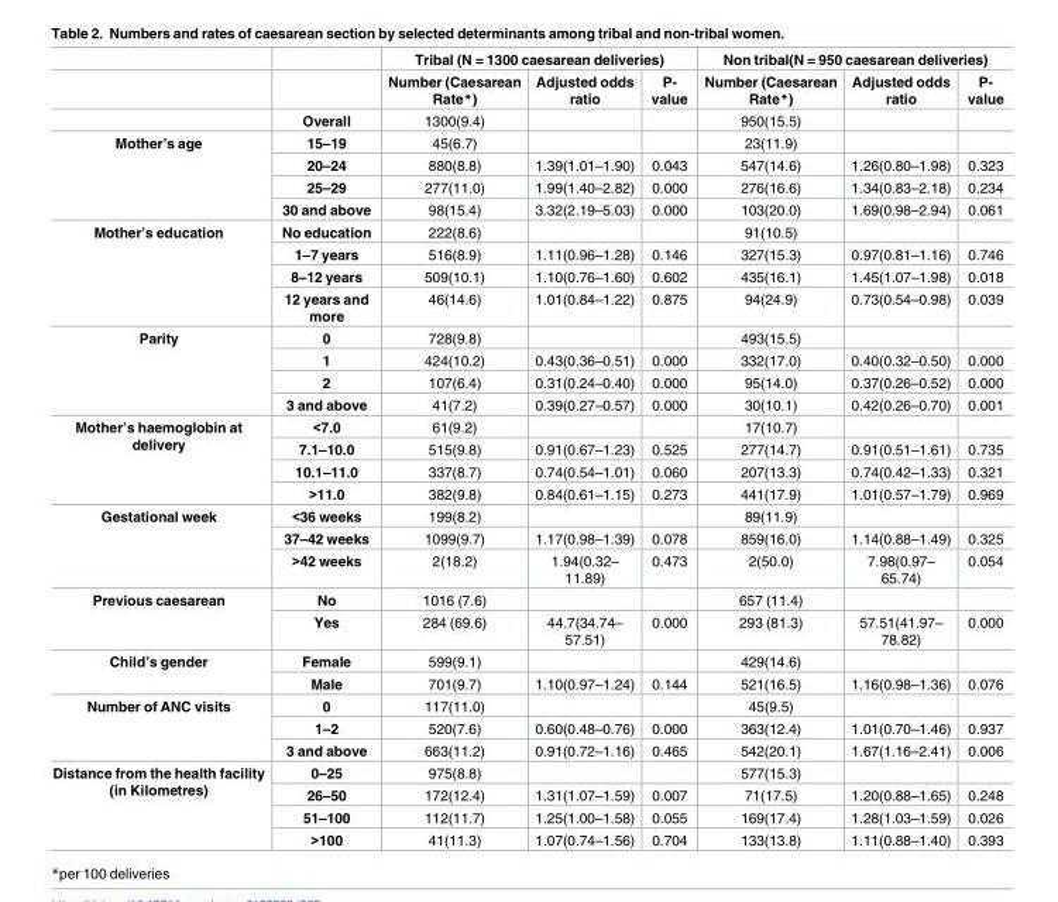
<table><thead><tr><td rowspan="2"></td><td rowspan="2"></td><td colspan="3">Tribal (N = 1300 caesarean deliveries)</td><td colspan="3">Non tribal(N = 950 caesarean deliveries)</td></tr><tr><td>Number (Caesarean Rate*)</td><td>Adjusted odds ratio</td><td>P- value</td><td>Number (Caesarean Rate*)</td><td>Adjusted odds ratio</td><td>P- value</td></tr></thead><tbody><tr><td></td><td>Overall</td><td>1300(9.4)</td><td></td><td></td><td>950(15.5)</td><td></td><td></td></tr><tr><td rowspan="4">Mother’s age</td><td>15–19</td><td>45(6.7)</td><td></td><td></td><td>23(11.9)</td><td></td><td></td></tr><tr><td>20–24</td><td>880(8.8)</td><td>1.39(1.01–1.90)</td><td>0.043</td><td>547(14.6)</td><td>1.26(0.80–1.98)</td><td>0.323</td></tr><tr><td>25–29</td><td>277(11.0)</td><td>1.99(1.40–2.82)</td><td>0.000</td><td>276(16.6)</td><td>1.34(0.83–2.18)</td><td>0.234</td></tr><tr><td>30 and above</td><td>98(15.4)</td><td>3.32(2.19–5.03)</td><td>0.000</td><td>103(20.0)</td><td>1.69(0.98–2.94)</td><td>0.061</td></tr><tr><td rowspan="4">Mother’s education</td><td>No education</td><td>222(8.6)</td><td></td><td></td><td>91(10.5)</td><td></td><td></td></tr><tr><td>1–7 years</td><td>516(8.9)</td><td>1.11(0.96–1.28)</td><td>0.146</td><td>327(15.3)</td><td>0.97(0.81–1.16)</td><td>0.746</td></tr><tr><td>8–12 years</td><td>509(10.1)</td><td>1.10(0.76–1.60)</td><td>0.602</td><td>435(16.1)</td><td>1.45(1.07–1.98)</td><td>0.018</td></tr><tr><td>12 years and more</td><td>46(14.6)</td><td>1.01(0.84–1.22)</td><td>0.875</td><td>94(24.9)</td><td>0.73(0.54–0.98)</td><td>0.039</td></tr><tr><td rowspan="4">Parity</td><td>0</td><td>728(9.8)</td><td></td><td></td><td>493(15.5)</td><td></td><td></td></tr><tr><td>1</td><td>424(10.2)</td><td>0.43(0.36–0.51)</td><td>0.000</td><td>332(17.0)</td><td>0.40(0.32–0.50)</td><td>0.000</td></tr><tr><td>2</td><td>107(6.4)</td><td>0.31(0.24–0.40)</td><td>0.000</td><td>95(14.0)</td><td>0.37(0.26–0.52)</td><td>0.000</td></tr><tr><td>3 and above</td><td>41(7.2)</td><td>0.39(0.27–0.57)</td><td>0.000</td><td>30(10.1)</td><td>0.42(0.26–0.70)</td><td>0.001</td></tr><tr><td rowspan="4">Mother’s haemoglobin at delivery</td><td>&lt;7.0</td><td>61(9.2)</td><td></td><td></td><td>17(10.7)</td><td></td><td></td></tr><tr><td>7.1–10.0</td><td>515(9.8)</td><td>0.91(0.67–1.23)</td><td>0.525</td><td>277(14.7)</td><td>0.91(0.51–1.61)</td><td>0.735</td></tr><tr><td>10.1–11.0</td><td>337(8.7)</td><td>0.74(0.54–1.01)</td><td>0.060</td><td>207(13.3)</td><td>0.74(0.42–1.33)</td><td>0.321</td></tr><tr><td>&gt;11.0</td><td>382(9.8)</td><td>0.84(0.61–1.15)</td><td>0.273</td><td>441(17.9)</td><td>1.01(0.57–1.79)</td><td>0.969</td></tr><tr><td rowspan="3">Gestational week</td><td>&lt;36 weeks</td><td>199(8.2)</td><td></td><td></td><td>89(11.9)</td><td></td><td></td></tr><tr><td>37–42 weeks</td><td>1099(9.7)</td><td>1.17(0.98–1.39)</td><td>0.078</td><td>859(16.0)</td><td>1.14(0.88–1.49)</td><td>0.325</td></tr><tr><td>&gt;42 weeks</td><td>2(18.2)</td><td>1.94(0.32– 11.89)</td><td>0.473</td><td>2(50.0)</td><td>7.98(0.97– 65.74)</td><td>0.054</td></tr><tr><td rowspan="2">Previous caesarean</td><td>No</td><td>1016 (7.6)</td><td></td><td></td><td>657 (11.4)</td><td></td><td></td></tr><tr><td>Yes</td><td>284 (69.6)</td><td>44.7(34.74– 57.51)</td><td>0.000</td><td>293 (81.3)</td><td>57.51(41.97– 78.82)</td><td>0.000</td></tr><tr><td rowspan="2">Child’s gender</td><td>Female</td><td>599(9.1)</td><td></td><td></td><td>429(14.6)</td><td></td><td></td></tr><tr><td>Male</td><td>701(9.7)</td><td>1.10(0.97–1.24)</td><td>0.144</td><td>521(16.5)</td><td>1.16(0.98–1.36)</td><td>0.076</td></tr><tr><td rowspan="3">Number of ANC visits</td><td>0</td><td>117(11.0)</td><td></td><td></td><td>45(9.5)</td><td></td><td></td></tr><tr><td>1–2</td><td>520(7.6)</td><td>0.60(0.48–0.76)</td><td>0.000</td><td>363(12.4)</td><td>1.01(0.70–1.46)</td><td>0.937</td></tr><tr><td>3 and above</td><td>663(11.2)</td><td>0.91(0.72–1.16)</td><td>0.465</td><td>542(20.1)</td><td>1.67(1.16–2.41)</td><td>0.006</td></tr><tr><td rowspan="4">Distance from the health facility (in Kilometres)</td><td>0–25</td><td>975(8.8)</td><td></td><td></td><td>577(15.3)</td><td></td><td></td></tr><tr><td>26–50</td><td>172(12.4)</td><td>1.31(1.07–1.59)</td><td>0.007</td><td>71(17.5)</td><td>1.20(0.88–1.65)</td><td>0.248</td></tr><tr><td>51–100</td><td>112(11.7)</td><td>1.25(1.00–1.58)</td><td>0.055</td><td>169(17.4)</td><td>1.28(1.03–1.59)</td><td>0.026</td></tr><tr><td>&gt;100</td><td>41(11.3)</td><td>1.07(0.74–1.56)</td><td>0.704</td><td>133(13.8)</td><td>1.11(0.88–1.40)</td><td>0.393</td></tr></tbody></table>